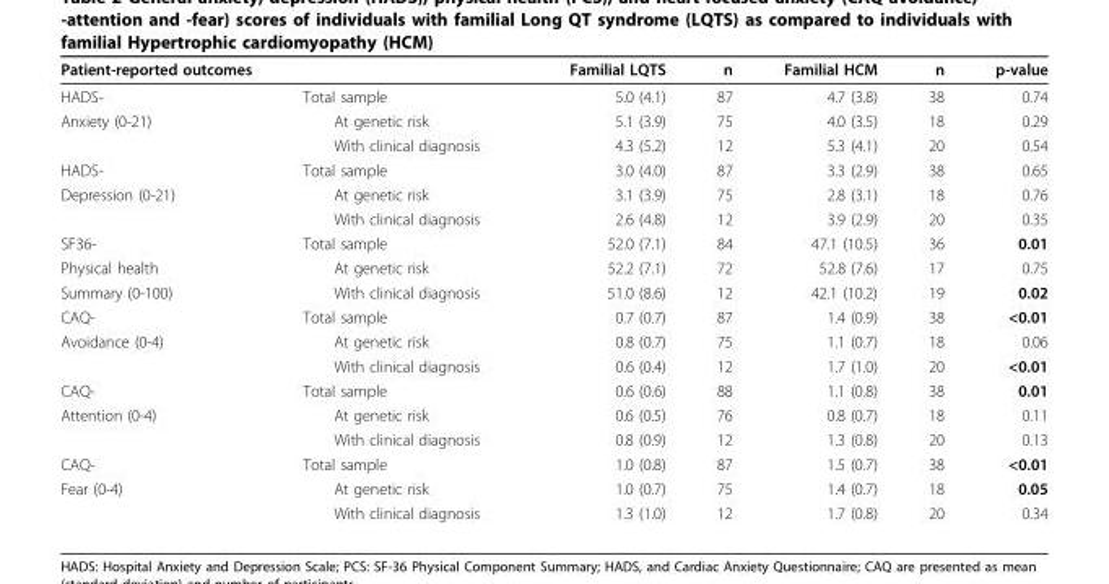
<table><thead><tr><td>Patient-reported outcomes</td><td></td><td>Familial LQTS</td><td>n</td><td>Familial HCM</td><td>n</td><td>p-value</td></tr></thead><tbody><tr><td>HADS-</td><td>Total sample</td><td>5.0 (4.1)</td><td>87</td><td>4.7 (3.8)</td><td>38</td><td>0.74</td></tr><tr><td rowspan="2">Anxiety (0-21)</td><td>At genetic risk</td><td>5.1 (3.9)</td><td>75</td><td>4.0 (3.5)</td><td>18</td><td>0.29</td></tr><tr><td>With clinical diagnosis</td><td>4.3 (5.2)</td><td>12</td><td>5.3 (4.1)</td><td>20</td><td>0.54</td></tr><tr><td>HADS-</td><td>Total sample</td><td>3.0 (4.0)</td><td>87</td><td>3.3 (2.9)</td><td>38</td><td>0.65</td></tr><tr><td rowspan="2">Depression (0-21)</td><td>At genetic risk</td><td>3.1 (3.9)</td><td>75</td><td>2.8 (3.1)</td><td>18</td><td>0.76</td></tr><tr><td>With clinical diagnosis</td><td>2.6 (4.8)</td><td>12</td><td>3.9 (2.9)</td><td>20</td><td>0.35</td></tr><tr><td>SF36-</td><td>Total sample</td><td>52.0 (7.1)</td><td>84</td><td>47.1 (10.5)</td><td>36</td><td>0.01</td></tr><tr><td>Physical health</td><td>At genetic risk</td><td>52.2 (7.1)</td><td>72</td><td>52.8 (7.6)</td><td>17</td><td>0.75</td></tr><tr><td>Summary (0-100)</td><td>With clinical diagnosis</td><td>51.0 (8.6)</td><td>12</td><td>42.1 (10.2)</td><td>19</td><td>0.02</td></tr><tr><td>CAQ-</td><td>Total sample</td><td>0.7 (0.7)</td><td>87</td><td>1.4 (0.9)</td><td>38</td><td>&lt;0.01</td></tr><tr><td rowspan="2">Avoidance (0-4)</td><td>At genetic risk</td><td>0.8 (0.7)</td><td>75</td><td>1.1 (0.7)</td><td>18</td><td>0.06</td></tr><tr><td>With clinical diagnosis</td><td>0.6 (0.4)</td><td>12</td><td>1.7 (1.0)</td><td>20</td><td>&lt;0.01</td></tr><tr><td>CAQ-</td><td>Total sample</td><td>0.6 (0.6)</td><td>88</td><td>1.1 (0.8)</td><td>38</td><td>0.01</td></tr><tr><td rowspan="2">Attention (0-4)</td><td>At genetic risk</td><td>0.6 (0.5)</td><td>76</td><td>0.8 (0.7)</td><td>18</td><td>0.11</td></tr><tr><td>With clinical diagnosis</td><td>0.8 (0.9)</td><td>12</td><td>1.3 (0.8)</td><td>20</td><td>0.13</td></tr><tr><td>CAQ-</td><td>Total sample</td><td>1.0 (0.8)</td><td>87</td><td>1.5 (0.7)</td><td>38</td><td>&lt;0.01</td></tr><tr><td rowspan="2">Fear (0-4)</td><td>At genetic risk</td><td>1.0 (0.7)</td><td>75</td><td>1.4 (0.7)</td><td>18</td><td>0.05</td></tr><tr><td>With clinical diagnosis</td><td>1.3 (1.0)</td><td>12</td><td>1.7 (0.8)</td><td>20</td><td>0.34</td></tr></tbody></table>